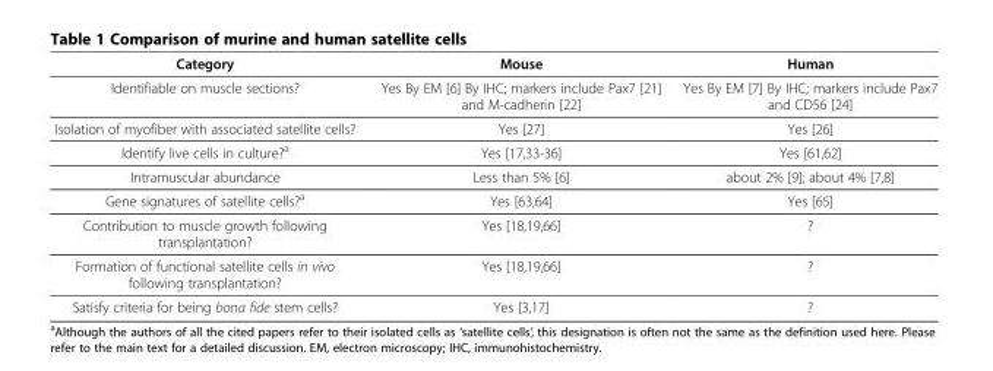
<table><thead><tr><td>Category</td><td>Mouse</td><td>Human</td></tr></thead><tbody><tr><td>Identifiable on muscle sections?</td><td>Yes By EM [6] By IHC; markers include Pax7 [21] and M-cadherin [22]</td><td>Yes By EM [7] By IHC; markers include Pax7 and CD56 [24]</td></tr><tr><td>Isolation of myofiber with associated satellite cells?</td><td>Yes [27]</td><td>Yes [26]</td></tr><tr><td>Identify live cells in culture?<sup>a</sup></td><td>Yes [17,33-36]</td><td>Yes [61,62]</td></tr><tr><td>Intramuscular abundance</td><td>Less than 5% [6]</td><td>about 2% [9]; about 4% [7,8]</td></tr><tr><td>Gene signatures of satellite cells?<sup>a</sup></td><td>Yes [63,64]</td><td>Yes [65]</td></tr><tr><td>Contribution to muscle growth following transplantation?</td><td>Yes [18,19,66]</td><td>?</td></tr><tr><td>Formation of functional satellite cells in vivo following transplantation?</td><td>Yes [18,19,66]</td><td>?</td></tr><tr><td>Satisfy criteria for being bona fide stem cells?</td><td>Yes [3,17]</td><td>?</td></tr></tbody></table>